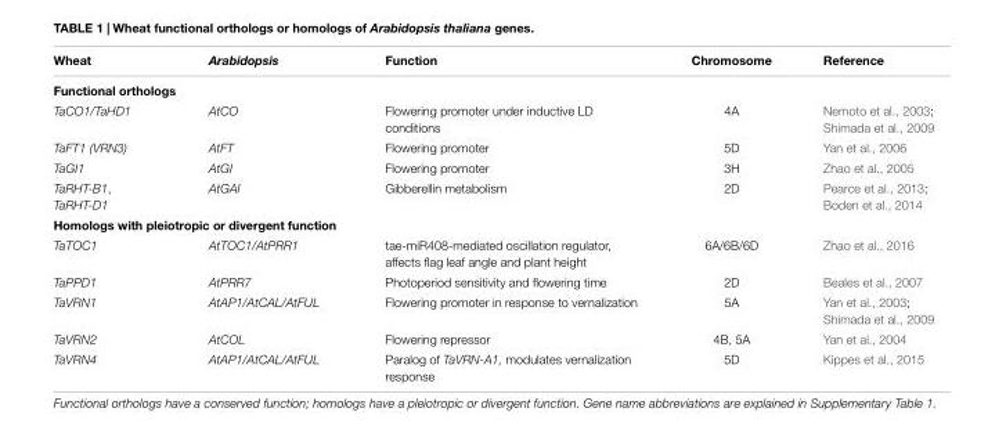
<table><thead><tr><td>Wheat</td><td>Arabidopsis</td><td>Function</td><td>Chromosome</td><td>Reference</td></tr></thead><tbody><tr><td colspan="5">Functional orthologs</td></tr><tr><td>TaCO1/TaHD1</td><td>AtCO</td><td>Flowering promoter under inductive LD conditions</td><td>4A</td><td>Nemoto et al., 2003; Shimada et al., 2009</td></tr><tr><td>TaFT1 (VRN3)</td><td>AtFT</td><td>Flowering promoter</td><td>5D</td><td>Yan et al., 2006</td></tr><tr><td>TaGI1</td><td>AtGI</td><td>Flowering promoter</td><td>3H</td><td>Zhao et al., 2005</td></tr><tr><td>TaRHT-B1, TaRHT-D1</td><td>AtGAI</td><td>Gibberellin metabolism</td><td>2D</td><td>Pearce et al., 2013; Boden et al., 2014</td></tr><tr><td colspan="5">Homologs with pleiotropic or divergent function</td></tr><tr><td>TaTOC1</td><td>AtTOC1/AtPRR1</td><td>tae-miR408-mediated oscillation regulator, affects flag leaf angle and plant height</td><td>6A/6B/6D</td><td>Zhao et al., 2016</td></tr><tr><td>TaPPD1</td><td>AtPRR7</td><td>Photoperiod sensitivity and flowering time</td><td>2D</td><td>Beales et al., 2007</td></tr><tr><td>TaVRN1</td><td>AtAP1/AtCAL/AtFUL</td><td>Flowering promoter in response to vernalization</td><td>5A</td><td>Yan et al., 2003; Shimada et al., 2009</td></tr><tr><td>TaVRN2</td><td>AtCOL</td><td>Flowering repressor</td><td>4B, 5A</td><td>Yan et al., 2004</td></tr><tr><td>TaVRN4</td><td>AtAP1/AtCAL/AtFUL</td><td>Paralog of TaVRN-A1, modulates vernalization response</td><td>5D</td><td>Kippes et al., 2015</td></tr></tbody></table>